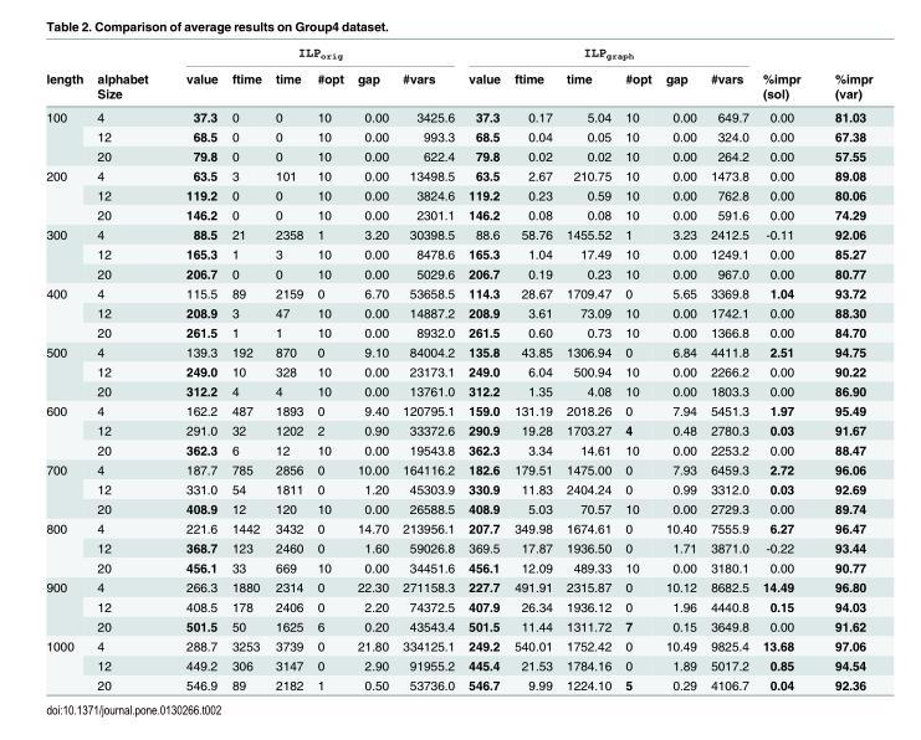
<table><thead><tr><td rowspan="2">length</td><td rowspan="2">alphabet Size</td><td colspan="6">ILP<sub>orig</sub></td><td colspan="6">ILP<sub>graph</sub></td><td rowspan="2">%impr (sol)</td><td rowspan="2">%impr (var)</td></tr><tr><td>value</td><td>ftime</td><td>time</td><td>#opt</td><td>gap</td><td>#vars</td><td>value</td><td>ftime</td><td>time</td><td>#opt</td><td>gap</td><td>#vars</td></tr></thead><tbody><tr><td rowspan="3">100</td><td>4</td><td>37.3</td><td>0</td><td>0</td><td>10</td><td>0.00</td><td>3425.6</td><td>37.3</td><td>0.17</td><td>5.04</td><td>10</td><td>0.00</td><td>649.7</td><td>0.00</td><td>81.03</td></tr><tr><td>12</td><td>68.5</td><td>0</td><td>0</td><td>10</td><td>0.00</td><td>993.3</td><td>68.5</td><td>0.04</td><td>0.05</td><td>10</td><td>0.00</td><td>324.0</td><td>0.00</td><td>67.38</td></tr><tr><td>20</td><td>79.8</td><td>0</td><td>0</td><td>10</td><td>0.00</td><td>622.4</td><td>79.8</td><td>0.02</td><td>0.02</td><td>10</td><td>0.00</td><td>264.2</td><td>0.00</td><td>57.55</td></tr><tr><td rowspan="3">200</td><td>4</td><td>63.5</td><td>3</td><td>101</td><td>10</td><td>0.00</td><td>13498.5</td><td>63.5</td><td>2.67</td><td>210.75</td><td>10</td><td>0.00</td><td>1473.8</td><td>0.00</td><td>89.08</td></tr><tr><td>12</td><td>119.2</td><td>0</td><td>0</td><td>10</td><td>0.00</td><td>3824.6</td><td>119.2</td><td>0.23</td><td>0.59</td><td>10</td><td>0.00</td><td>762.8</td><td>0.00</td><td>80.06</td></tr><tr><td>20</td><td>146.2</td><td>0</td><td>0</td><td>10</td><td>0.00</td><td>2301.1</td><td>146.2</td><td>0.08</td><td>0.08</td><td>10</td><td>0.00</td><td>591.6</td><td>0.00</td><td>74.29</td></tr><tr><td rowspan="3">300</td><td>4</td><td>88.5</td><td>21</td><td>2358</td><td>1</td><td>3.20</td><td>30398.5</td><td>88.6</td><td>58.76</td><td>1455.52</td><td>1</td><td>3.23</td><td>2412.5</td><td>-0.11</td><td>92.06</td></tr><tr><td>12</td><td>165.3</td><td>1</td><td>3</td><td>10</td><td>0.00</td><td>8478.6</td><td>165.3</td><td>1.04</td><td>17.49</td><td>10</td><td>0.00</td><td>1249.1</td><td>0.00</td><td>85.27</td></tr><tr><td>20</td><td>206.7</td><td>0</td><td>0</td><td>10</td><td>0.00</td><td>5029.6</td><td>206.7</td><td>0.19</td><td>0.23</td><td>10</td><td>0.00</td><td>967.0</td><td>0.00</td><td>80.77</td></tr><tr><td rowspan="3">400</td><td>4</td><td>115.5</td><td>89</td><td>2159</td><td>0</td><td>6.70</td><td>53658.5</td><td>114.3</td><td>28.67</td><td>1709.47</td><td>0</td><td>5.65</td><td>3369.8</td><td>1.04</td><td>93.72</td></tr><tr><td>12</td><td>208.9</td><td>3</td><td>47</td><td>10</td><td>0.00</td><td>14887.2</td><td>208.9</td><td>3.61</td><td>73.09</td><td>10</td><td>0.00</td><td>1742.1</td><td>0.00</td><td>88.30</td></tr><tr><td>20</td><td>261.5</td><td>1</td><td>1</td><td>10</td><td>0.00</td><td>8932.0</td><td>261.5</td><td>0.60</td><td>0.73</td><td>10</td><td>0.00</td><td>1366.8</td><td>0.00</td><td>84.70</td></tr><tr><td rowspan="3">500</td><td>4</td><td>139.3</td><td>192</td><td>870</td><td>0</td><td>9.10</td><td>84004.2</td><td>135.8</td><td>43.85</td><td>1306.94</td><td>0</td><td>6.84</td><td>4411.8</td><td>2.51</td><td>94.75</td></tr><tr><td>12</td><td>249.0</td><td>10</td><td>328</td><td>10</td><td>0.00</td><td>23173.1</td><td>249.0</td><td>6.04</td><td>500.94</td><td>10</td><td>0.00</td><td>2266.2</td><td>0.00</td><td>90.22</td></tr><tr><td>20</td><td>312.2</td><td>4</td><td>4</td><td>10</td><td>0.00</td><td>13761.0</td><td>312.2</td><td>1.35</td><td>4.08</td><td>10</td><td>0.00</td><td>1803.3</td><td>0.00</td><td>86.90</td></tr><tr><td rowspan="3">600</td><td>4</td><td>162.2</td><td>487</td><td>1893</td><td>0</td><td>9.40</td><td>120795.1</td><td>159.0</td><td>131.19</td><td>2018.26</td><td>0</td><td>7.94</td><td>5451.3</td><td>1.97</td><td>95.49</td></tr><tr><td>12</td><td>291.0</td><td>32</td><td>1202</td><td>2</td><td>0.90</td><td>33372.6</td><td>290.9</td><td>19.28</td><td>1703.27</td><td>4</td><td>0.48</td><td>2780.3</td><td>0.03</td><td>91.67</td></tr><tr><td>20</td><td>362.3</td><td>6</td><td>12</td><td>10</td><td>0.00</td><td>19543.8</td><td>362.3</td><td>3.34</td><td>14.61</td><td>10</td><td>0.00</td><td>2253.2</td><td>0.00</td><td>88.47</td></tr><tr><td rowspan="3">700</td><td>4</td><td>187.7</td><td>785</td><td>2856</td><td>0</td><td>10.00</td><td>164116.2</td><td>182.6</td><td>179.51</td><td>1475.00</td><td>0</td><td>7.93</td><td>6459.3</td><td>2.72</td><td>96.06</td></tr><tr><td>12</td><td>331.0</td><td>54</td><td>1811</td><td>0</td><td>1.20</td><td>45303.9</td><td>330.9</td><td>11.83</td><td>2404.24</td><td>0</td><td>0.99</td><td>3312.0</td><td>0.03</td><td>92.69</td></tr><tr><td>20</td><td>408.9</td><td>12</td><td>120</td><td>10</td><td>0.00</td><td>26588.5</td><td>408.9</td><td>5.03</td><td>70.57</td><td>10</td><td>0.00</td><td>2729.3</td><td>0.00</td><td>89.74</td></tr><tr><td rowspan="3">800</td><td>4</td><td>221.6</td><td>1442</td><td>3432</td><td>0</td><td>14.70</td><td>213956.1</td><td>207.7</td><td>349.98</td><td>1674.61</td><td>0</td><td>10.40</td><td>7555.9</td><td>6.27</td><td>96.47</td></tr><tr><td>12</td><td>368.7</td><td>123</td><td>2460</td><td>0</td><td>1.60</td><td>59026.8</td><td>369.5</td><td>17.87</td><td>1936.50</td><td>0</td><td>1.71</td><td>3871.0</td><td>-0.22</td><td>93.44</td></tr><tr><td>20</td><td>456.1</td><td>33</td><td>669</td><td>10</td><td>0.00</td><td>34451.6</td><td>456.1</td><td>12.09</td><td>489.33</td><td>10</td><td>0.00</td><td>3180.1</td><td>0.00</td><td>90.77</td></tr><tr><td rowspan="3">900</td><td>4</td><td>266.3</td><td>1880</td><td>2314</td><td>0</td><td>22.30</td><td>271158.3</td><td>227.7</td><td>491.91</td><td>2315.87</td><td>0</td><td>10.12</td><td>8682.5</td><td>14.49</td><td>96.80</td></tr><tr><td>12</td><td>408.5</td><td>178</td><td>2406</td><td>0</td><td>2.20</td><td>74372.5</td><td>407.9</td><td>26.34</td><td>1936.12</td><td>0</td><td>1.96</td><td>4440.8</td><td>0.15</td><td>94.03</td></tr><tr><td>20</td><td>501.5</td><td>50</td><td>1625</td><td>6</td><td>0.20</td><td>43543.4</td><td>501.5</td><td>11.44</td><td>1311.72</td><td>7</td><td>0.15</td><td>3649.8</td><td>0.00</td><td>91.62</td></tr><tr><td rowspan="3">1000</td><td>4</td><td>288.7</td><td>3253</td><td>3739</td><td>0</td><td>21.80</td><td>334125.1</td><td>249.2</td><td>540.01</td><td>1752.42</td><td>0</td><td>10.49</td><td>9825.4</td><td>13.68</td><td>97.06</td></tr><tr><td>12</td><td>449.2</td><td>306</td><td>3147</td><td>0</td><td>2.90</td><td>91955.2</td><td>445.4</td><td>21.53</td><td>1784.16</td><td>0</td><td>1.89</td><td>5017.2</td><td>0.85</td><td>94.54</td></tr><tr><td>20</td><td>546.9</td><td>89</td><td>2182</td><td>1</td><td>0.50</td><td>53736.0</td><td>546.7</td><td>9.99</td><td>1224.10</td><td>5</td><td>0.29</td><td>4106.7</td><td>0.04</td><td>92.36</td></tr></tbody></table>